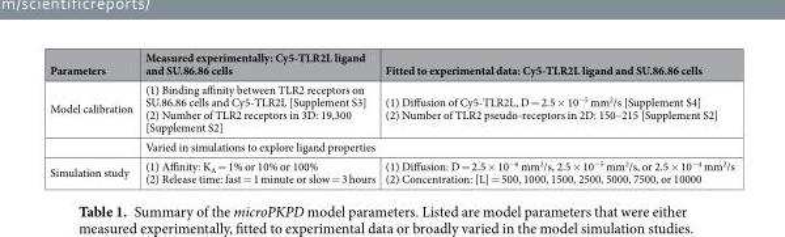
<table><thead><tr><td>Parameters</td><td>Measured experimentally: Cy5-TLR2L ligand and SU.86.86 cells</td><td>Fitted to experimental data: Cy5-TLR2L ligand and SU.86.86 cells</td></tr></thead><tbody><tr><td rowspan="2">Model calibration</td><td>(1) Binding affinity between TLR2 receptors on SU.86.86 cells and Cy5-TLR2L [Supplement S3] (2) Number of TLR2 receptors in 3D: 19,300 [Supplement S2]</td><td>(1) Diffusion of Cy5-TLR2L, D = 2.5 × 10<sup>−5</sup> mm<sup>2</sup>/s [Supplement S4] (2) Number of TLR2 pseudo-receptors in 2D: 150–215 [Supplement S2]</td></tr><tr><td colspan="2">Varied in simulations to explore ligand properties</td></tr><tr><td>Simulation study</td><td>(1) Affinity: K<sub>A</sub> = 1% or 10% or 100% (2) Release time: fast = 1 minute or slow = 3 hours</td><td>(1) Diffusion: D = 2.5 × 10<sup>−6</sup> mm<sup>2</sup>/s, 2.5 × 10<sup>−5</sup> mm<sup>2</sup>/s, or 2.5 × 10<sup>−4</sup> mm<sup>2</sup>/s (2) Concentration: [L] = 500, 1000, 1500, 2500, 5000, 7500, or 10000</td></tr></tbody></table>